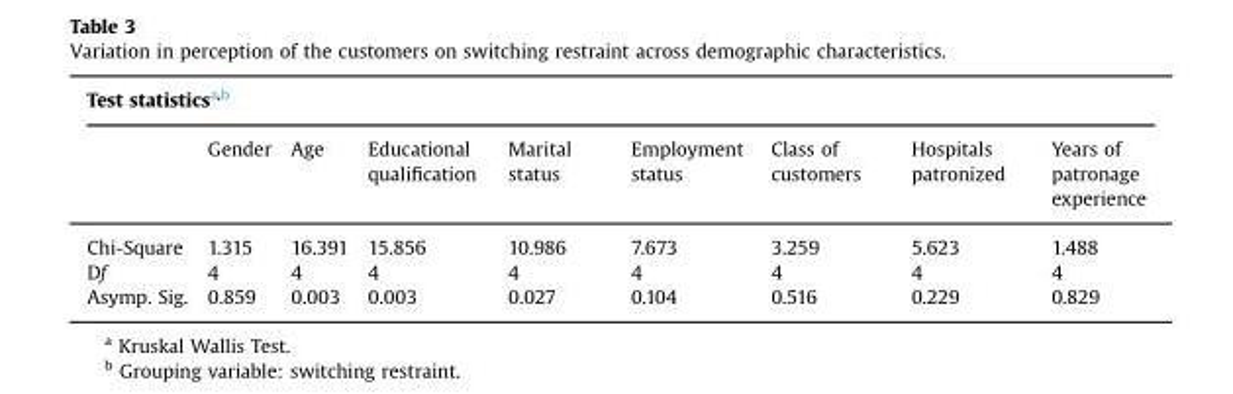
<table><thead><tr><td colspan="9">Test statistics<sup>a,b</sup></td></tr><tr><td></td><td>Gender</td><td>Age</td><td>Educational qualification</td><td>Marital status</td><td>Employment status</td><td>Class of customers</td><td>Hospitals patronized</td><td>Years of patronage experience</td></tr></thead><tbody><tr><td>Chi-Square</td><td>1.315</td><td>16.391</td><td>15.856</td><td>10.986</td><td>7.673</td><td>3.259</td><td>5.623</td><td>1.488</td></tr><tr><td>Df</td><td>4</td><td>4</td><td>4</td><td>4</td><td>4</td><td>4</td><td>4</td><td>4</td></tr><tr><td>Asymp. Sig.</td><td>0.859</td><td>0.003</td><td>0.003</td><td>0.027</td><td>0.104</td><td>0.516</td><td>0.229</td><td>0.829</td></tr></tbody></table>